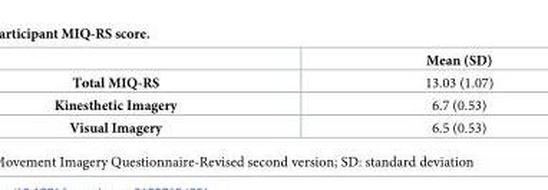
<table><thead><tr><td></td><td>Mean (SD)</td></tr></thead><tbody><tr><td>Total MIQ-RS</td><td>13.03 (1.07)</td></tr><tr><td>Kinesthetic Imagery</td><td>6.7 (0.53)</td></tr><tr><td>Visual Imagery</td><td>6.5 (0.53)</td></tr></tbody></table>